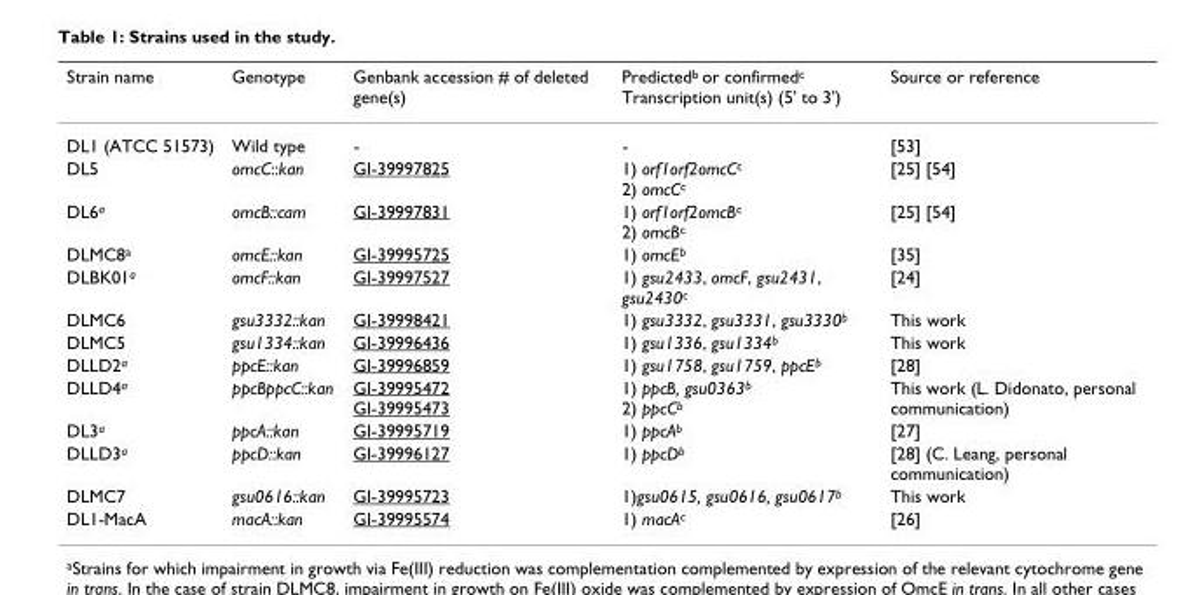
<table><thead><tr><td>Strain name</td><td>Genotype</td><td>Genbank accession # of deleted gene(s)</td><td>Predictedb or confirmedc Transcription unit(s) (5&#x27; to 3&#x27;)</td><td>Source or reference</td></tr></thead><tbody><tr><td>DL1 (ATCC 51573)</td><td>Wild type</td><td>-</td><td>-</td><td>[53]</td></tr><tr><td>DL5</td><td>omcC::kan</td><td>GI-39997825</td><td>1) orf1orf2omcCc 2) omcCc</td><td>[25] [54]</td></tr><tr><td>DL6a</td><td>omcB::cam</td><td>GI-39997831</td><td>1) orf1orf2omcBc 2) omcBc</td><td>[25] [54]</td></tr><tr><td>DLMC8a</td><td>omcE::kan</td><td>GI-39995725</td><td>1) omcEb</td><td>[35]</td></tr><tr><td>DLBK01a</td><td>omcF::kan</td><td>GI-39997527</td><td>1) gsu2433, omcF, gsu2431, gsu2430c</td><td>[24]</td></tr><tr><td>DLMC6</td><td>gsu3332::kan</td><td>GI-39998421</td><td>1) gsu3332, gsu3331, gsu3330b</td><td>This work</td></tr><tr><td>DLMC5</td><td>gsu1334::kan</td><td>GI-39996436</td><td>1) gsu1336, gsu1334b</td><td>This work</td></tr><tr><td>DLLD2a</td><td>ppcE::kan</td><td>GI-39996859</td><td>1) gsu1758, gsu1759, ppcEb</td><td>[28]</td></tr><tr><td>DLLD4a</td><td>ppcBppcC::kan</td><td>GI-39995472 GI-39995473</td><td>1) ppcB, gsu0363b 2) ppcCb</td><td>This work (L. Didonato, personal communication)</td></tr><tr><td>DL3a</td><td>ppcA::kan</td><td>GI-39995719</td><td>1) ppcAb</td><td>[27]</td></tr><tr><td>DLLD3a</td><td>ppcD::kan</td><td>GI-39996127</td><td>1) ppcDb</td><td>[28] (C. Leang, personal communication)</td></tr><tr><td>DLMC7</td><td>gsu0616::kan</td><td>GI-39995723</td><td>1)gsu0615, gsu0616, gsu0617b</td><td>This work</td></tr><tr><td>DL1-MacA</td><td>macA::kan</td><td>GI-39995574</td><td>1) macAc</td><td>[26]</td></tr></tbody></table>